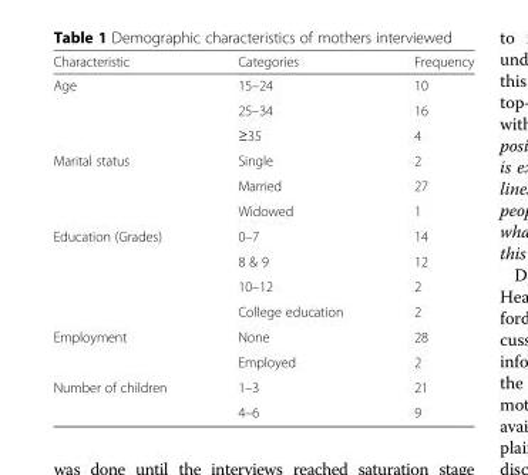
<table><thead><tr><td>Characteristic</td><td>Categories</td><td>Frequency</td></tr></thead><tbody><tr><td rowspan="3">Age</td><td>15–24</td><td>10</td></tr><tr><td>25–34</td><td>16</td></tr><tr><td>≥35</td><td>4</td></tr><tr><td rowspan="3">Marital status</td><td>Single</td><td>2</td></tr><tr><td>Married</td><td>27</td></tr><tr><td>Widowed</td><td>1</td></tr><tr><td rowspan="4">Education (Grades)</td><td>0–7</td><td>14</td></tr><tr><td>8 &amp; 9</td><td>12</td></tr><tr><td>10–12</td><td>2</td></tr><tr><td>College education</td><td>2</td></tr><tr><td rowspan="2">Employment</td><td>None</td><td>28</td></tr><tr><td>Employed</td><td>2</td></tr><tr><td rowspan="2">Number of children</td><td>1–3</td><td>21</td></tr><tr><td>4–6</td><td>9</td></tr></tbody></table>